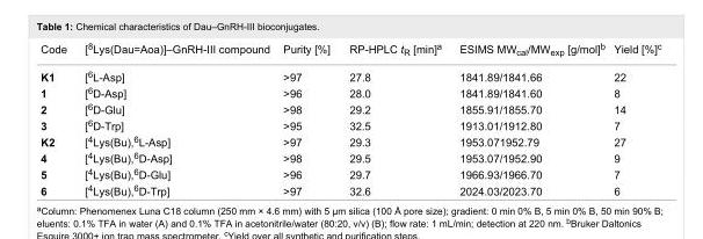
<table><tbody><tr><td>Code</td><td>[<sup>8</sup>Lys(Dau=Aoa)]–GnRH-III compound</td><td>Purity [%]</td><td>RP-HPLC t<sub>R</sub> [min]<sup>a</sup></td><td>ESIMS MW<sub>cal</sub>/MW<sub>exp</sub> [g/mol]<sup>b</sup></td><td>Yield [%]<sup>c</sup></td></tr><tr><td>K1</td><td>[<sup>6</sup>L-Asp]</td><td>&gt;97</td><td>27.8</td><td>1841.89/1841.66</td><td>22</td></tr><tr><td>1</td><td>[<sup>6</sup>D-Asp]</td><td>&gt;96</td><td>28.0</td><td>1841.89/1841.60</td><td>8</td></tr><tr><td>2</td><td>[<sup>6</sup>D-Glu]</td><td>&gt;98</td><td>29.2</td><td>1855.91/1855.70</td><td>14</td></tr><tr><td>3</td><td>[<sup>6</sup>D-Trp]</td><td>&gt;95</td><td>32.5</td><td>1913.01/1912.80</td><td>7</td></tr><tr><td>K2</td><td>[<sup>4</sup>Lys(Bu),<sup>6</sup>L-Asp]</td><td>&gt;97</td><td>29.3</td><td>1953.071952.79</td><td>27</td></tr><tr><td>4</td><td>[<sup>4</sup>Lys(Bu),<sup>6</sup>D-Asp]</td><td>&gt;98</td><td>29.5</td><td>1953.07/1952.90</td><td>9</td></tr><tr><td>5</td><td>[<sup>4</sup>Lys(Bu),<sup>6</sup>D-Glu]</td><td>&gt;96</td><td>29.7</td><td>1966.93/1966.70</td><td>7</td></tr><tr><td>6</td><td>[<sup>4</sup>Lys(Bu),<sup>6</sup>D-Trp]</td><td>&gt;97</td><td>32.6</td><td>2024.03/2023.70</td><td>6</td></tr></tbody></table>